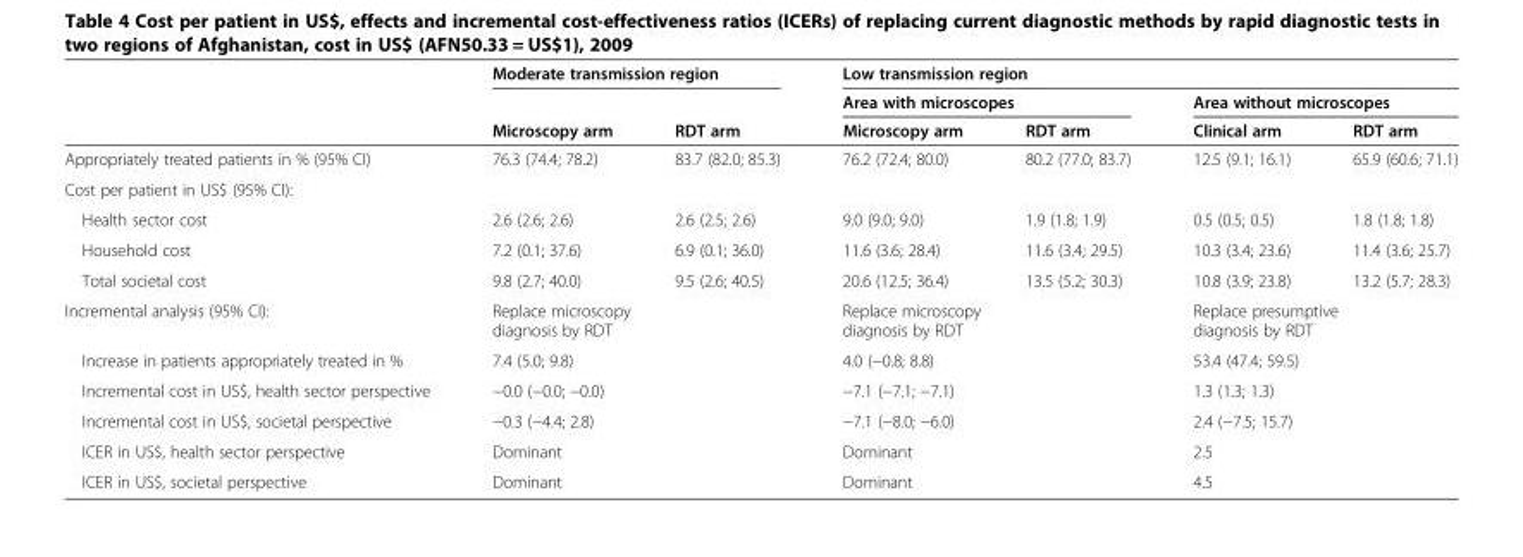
<table><thead><tr><td rowspan="3"></td><td colspan="2">Moderate transmission region</td><td colspan="4">Low transmission region</td></tr><tr><td rowspan="2">Microscopy arm</td><td rowspan="2">RDT arm</td><td colspan="2">Area with microscopes</td><td colspan="2">Area without microscopes</td></tr><tr><td>Microscopy arm</td><td>RDT arm</td><td>Clinical arm</td><td>RDT arm</td></tr></thead><tbody><tr><td>Appropriately treated patients in % (95% CI)</td><td>76.3 (74.4; 78.2)</td><td>83.7 (82.0; 85.3)</td><td>76.2 (72.4; 80.0)</td><td>80.2 (77.0; 83.7)</td><td>12.5 (9.1; 16.1)</td><td>65.9 (60.6; 71.1)</td></tr><tr><td colspan="7">Cost per patient in US$ (95% CI):</td></tr><tr><td>Health sector cost</td><td>2.6 (2.6; 2.6)</td><td>2.6 (2.5; 2.6)</td><td>9.0 (9.0; 9.0)</td><td>1.9 (1.8; 1.9)</td><td>0.5 (0.5; 0.5)</td><td>1.8 (1.8; 1.8)</td></tr><tr><td>Household cost</td><td>7.2 (0.1; 37.6)</td><td>6.9 (0.1; 36.0)</td><td>11.6 (3.6; 28.4)</td><td>11.6 (3.4; 29.5)</td><td>10.3 (3.4; 23.6)</td><td>11.4 (3.6; 25.7)</td></tr><tr><td>Total societal cost</td><td>9.8 (2.7; 40.0)</td><td>9.5 (2.6; 40.5)</td><td>20.6 (12.5; 36.4)</td><td>13.5 (5.2; 30.3)</td><td>10.8 (3.9; 23.8)</td><td>13.2 (5.7; 28.3)</td></tr><tr><td>Incremental analysis (95% CI):</td><td colspan="2">Replace microscopy diagnosis by RDT</td><td colspan="2">Replace microscopy diagnosis by RDT</td><td colspan="2">Replace presumptive diagnosis by RDT</td></tr><tr><td>Increase in patients appropriately treated in %</td><td colspan="2">7.4 (5.0; 9.8)</td><td colspan="2">4.0 (−0.8; 8.8)</td><td colspan="2">53.4 (47.4; 59.5)</td></tr><tr><td>Incremental cost in US$, health sector perspective</td><td colspan="2">−0.0 (−0.0; −0.0)</td><td colspan="2">−7.1 (−7.1; −7.1)</td><td colspan="2">1.3 (1.3; 1.3)</td></tr><tr><td>Incremental cost in US$, societal perspective</td><td colspan="2">−0.3 (−4.4; 2.8)</td><td colspan="2">−7.1 (−8.0; −6.0)</td><td colspan="2">2.4 (−7.5; 15.7)</td></tr><tr><td>ICER in US$, health sector perspective</td><td colspan="2">Dominant</td><td colspan="2">Dominant</td><td colspan="2">2.5</td></tr><tr><td>ICER in US$, societal perspective</td><td colspan="2">Dominant</td><td colspan="2">Dominant</td><td colspan="2">4.5</td></tr></tbody></table>